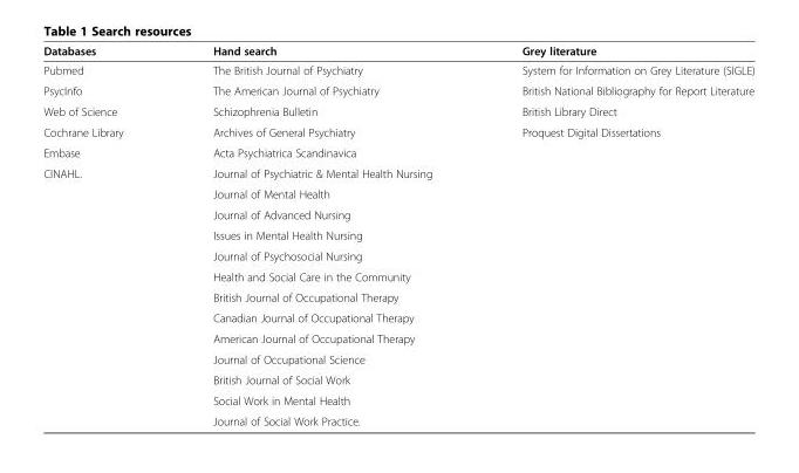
<table><thead><tr><td>Databases</td><td>Hand search</td><td>Grey literature</td></tr></thead><tbody><tr><td>Pubmed</td><td>The British Journal of Psychiatry</td><td>System for Information on Grey Literature (SIGLE)</td></tr><tr><td>PsycInfo</td><td>The American Journal of Psychiatry</td><td>British National Bibliography for Report Literature</td></tr><tr><td>Web of Science</td><td>Schizophrenia Bulletin</td><td>British Library Direct</td></tr><tr><td>Cochrane Library</td><td>Archives of General Psychiatry</td><td>Proquest Digital Dissertations</td></tr><tr><td>Embase</td><td>Acta Psychiatrica Scandinavica</td><td></td></tr><tr><td rowspan="13">CINAHL.</td><td>Journal of Psychiatric &amp; Mental Health Nursing</td><td></td></tr><tr><td>Journal of Mental Health</td><td></td></tr><tr><td>Journal of Advanced Nursing</td><td></td></tr><tr><td>Issues in Mental Health Nursing</td><td></td></tr><tr><td>Journal of Psychosocial Nursing</td><td></td></tr><tr><td>Health and Social Care in the Community</td><td></td></tr><tr><td>British Journal of Occupational Therapy</td><td></td></tr><tr><td>Canadian Journal of Occupational Therapy</td><td></td></tr><tr><td>American Journal of Occupational Therapy</td><td></td></tr><tr><td>Journal of Occupational Science</td><td></td></tr><tr><td>British Journal of Social Work</td><td></td></tr><tr><td>Social Work in Mental Health</td><td></td></tr><tr><td>Journal of Social Work Practice.</td><td></td></tr></tbody></table>